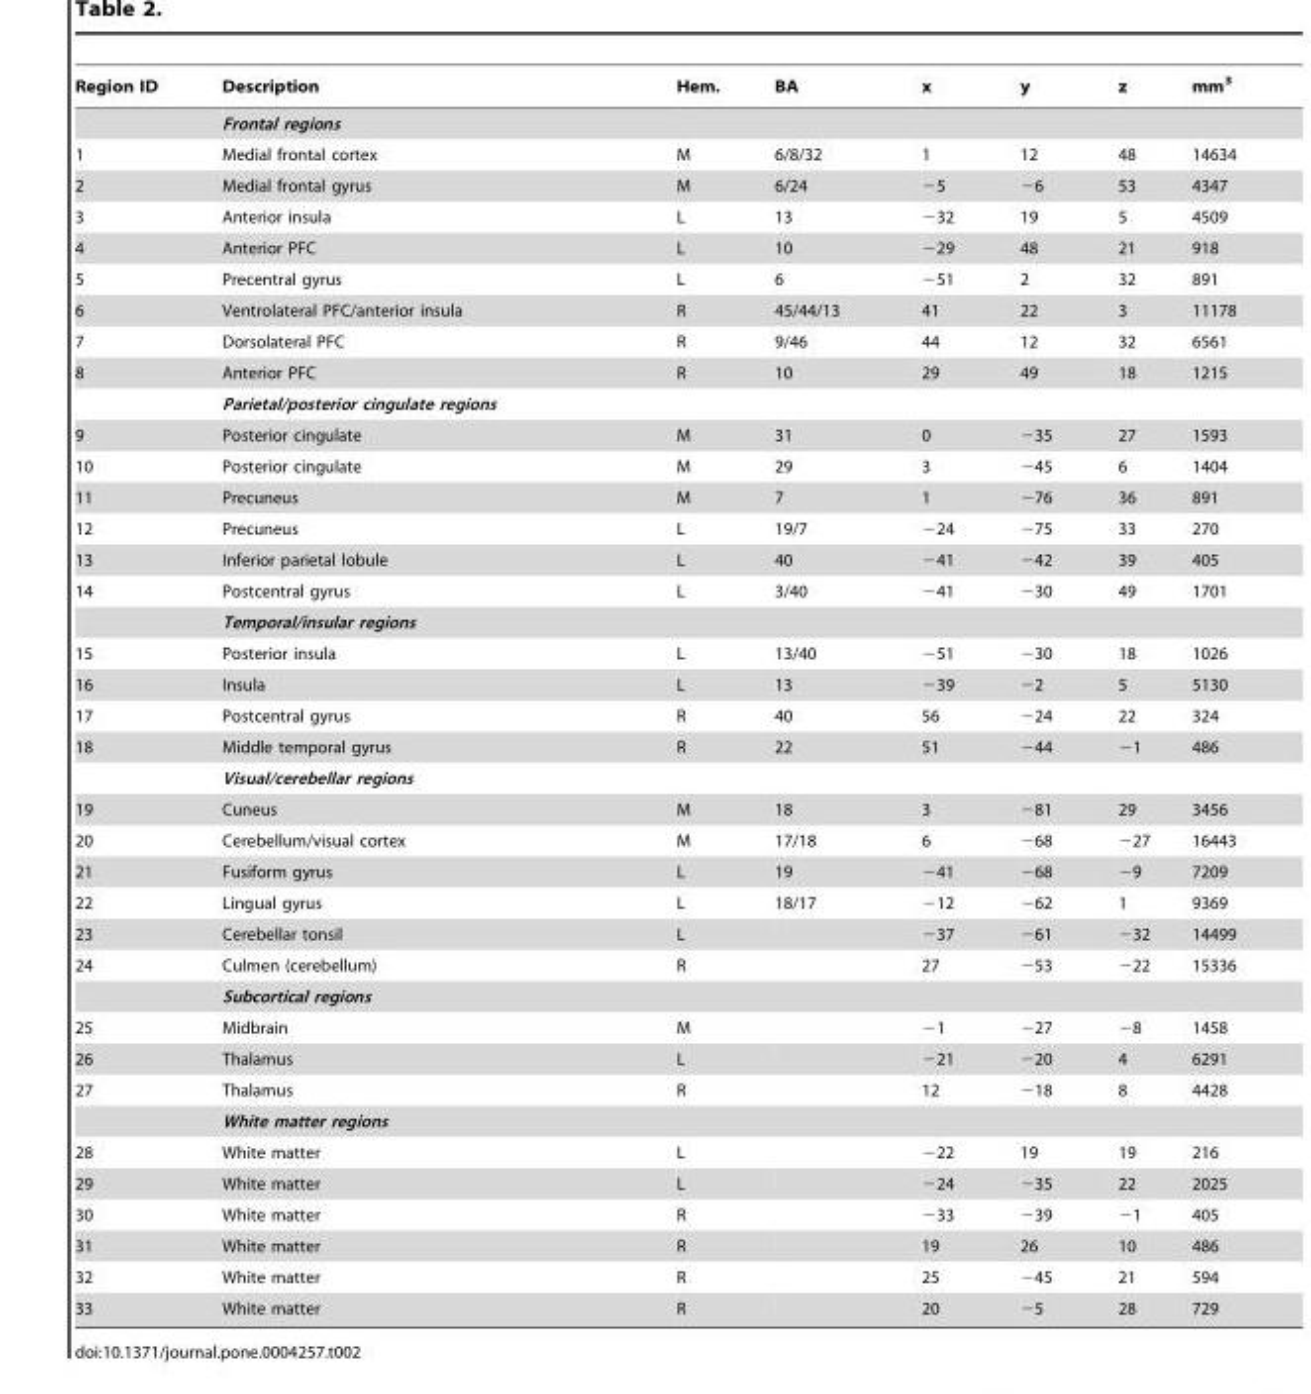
<table><thead><tr><td>Region ID</td><td>Description</td><td>Hem.</td><td>BA</td><td>x</td><td>y</td><td>z</td><td>mm<sup>3</sup></td></tr></thead><tbody><tr><td></td><td colspan="7">Frontal regions</td></tr><tr><td>1</td><td>Medial frontal cortex</td><td>M</td><td>6/8/32</td><td>1</td><td>12</td><td>48</td><td>14634</td></tr><tr><td>2</td><td>Medial frontal gyrus</td><td>M</td><td>6/24</td><td>−5</td><td>−6</td><td>53</td><td>4347</td></tr><tr><td>3</td><td>Anterior insula</td><td>L</td><td>13</td><td>−32</td><td>19</td><td>5</td><td>4509</td></tr><tr><td>4</td><td>Anterior PFC</td><td>L</td><td>10</td><td>−29</td><td>48</td><td>21</td><td>918</td></tr><tr><td>5</td><td>Precentral gyrus</td><td>L</td><td>6</td><td>−51</td><td>2</td><td>32</td><td>891</td></tr><tr><td>6</td><td>Ventrolateral PFC/anterior insula</td><td>R</td><td>45/44/13</td><td>41</td><td>22</td><td>3</td><td>11178</td></tr><tr><td>7</td><td>Dorsolateral PFC</td><td>R</td><td>9/46</td><td>44</td><td>12</td><td>32</td><td>6561</td></tr><tr><td rowspan="2">8</td><td>Anterior PFC</td><td>R</td><td>10</td><td>29</td><td>49</td><td>18</td><td>1215</td></tr><tr><td colspan="7">Parietal/posterior cingulate regions</td></tr><tr><td>9</td><td>Posterior cingulate</td><td>M</td><td>31</td><td>0</td><td>−35</td><td>27</td><td>1593</td></tr><tr><td>10</td><td>Posterior cingulate</td><td>M</td><td>29</td><td>3</td><td>−45</td><td>6</td><td>1404</td></tr><tr><td>11</td><td>Precuneus</td><td>M</td><td>7</td><td>1</td><td>−76</td><td>36</td><td>891</td></tr><tr><td>12</td><td>Precuneus</td><td>L</td><td>19/7</td><td>−24</td><td>−75</td><td>33</td><td>270</td></tr><tr><td>13</td><td>Inferior parietal lobule</td><td>L</td><td>40</td><td>−41</td><td>−42</td><td>39</td><td>405</td></tr><tr><td rowspan="2">14</td><td>Postcentral gyrus</td><td>L</td><td>3/40</td><td>−41</td><td>−30</td><td>49</td><td>1701</td></tr><tr><td colspan="7">Temporal/insular regions</td></tr><tr><td>15</td><td>Posterior insula</td><td>L</td><td>13/40</td><td>−51</td><td>−30</td><td>18</td><td>1026</td></tr><tr><td>16</td><td>Insula</td><td>L</td><td>13</td><td>−39</td><td>−2</td><td>5</td><td>5130</td></tr><tr><td>17</td><td>Postcentral gyrus</td><td>R</td><td>40</td><td>56</td><td>−24</td><td>22</td><td>324</td></tr><tr><td rowspan="2">18</td><td>Middle temporal gyrus</td><td>R</td><td>22</td><td>51</td><td>−44</td><td>−1</td><td>486</td></tr><tr><td colspan="7">Visual/cerebellar regions</td></tr><tr><td>19</td><td>Cuneus</td><td>M</td><td>18</td><td>3</td><td>−81</td><td>29</td><td>3456</td></tr><tr><td>20</td><td>Cerebellum/visual cortex</td><td>M</td><td>17/18</td><td>6</td><td>−68</td><td>−27</td><td>16443</td></tr><tr><td>21</td><td>Fusiform gyrus</td><td>L</td><td>19</td><td>−41</td><td>−68</td><td>−9</td><td>7209</td></tr><tr><td>22</td><td>Lingual gyrus</td><td>L</td><td>18/17</td><td>−12</td><td>−62</td><td>1</td><td>9369</td></tr><tr><td>23</td><td>Cerebellar tonsil</td><td>L</td><td></td><td>−37</td><td>−61</td><td>−32</td><td>14499</td></tr><tr><td rowspan="2">24</td><td>Culmen (cerebellum)</td><td>R</td><td></td><td>27</td><td>−53</td><td>−22</td><td>15336</td></tr><tr><td colspan="7">Subcortical regions</td></tr><tr><td>25</td><td>Midbrain</td><td>M</td><td></td><td>−1</td><td>−27</td><td>−8</td><td>1458</td></tr><tr><td>26</td><td>Thalamus</td><td>L</td><td></td><td>−21</td><td>−20</td><td>4</td><td>6291</td></tr><tr><td rowspan="2">27</td><td>Thalamus</td><td>R</td><td></td><td>12</td><td>−18</td><td>8</td><td>4428</td></tr><tr><td colspan="7">White matter regions</td></tr><tr><td>28</td><td>White matter</td><td>L</td><td></td><td>−22</td><td>19</td><td>19</td><td>216</td></tr><tr><td>29</td><td>White matter</td><td>L</td><td></td><td>−24</td><td>−35</td><td>22</td><td>2025</td></tr><tr><td>30</td><td>White matter</td><td>R</td><td></td><td>−33</td><td>−39</td><td>−1</td><td>405</td></tr><tr><td>31</td><td>White matter</td><td>R</td><td></td><td>19</td><td>26</td><td>10</td><td>486</td></tr><tr><td>32</td><td>White matter</td><td>R</td><td></td><td>25</td><td>−45</td><td>21</td><td>594</td></tr><tr><td>33</td><td>White matter</td><td>R</td><td></td><td>20</td><td>−5</td><td>28</td><td>729</td></tr></tbody></table>